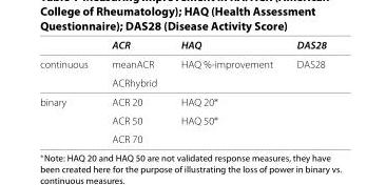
<table><thead><tr><td></td><td>ACR</td><td>HAQ</td><td>DAS28</td></tr></thead><tbody><tr><td rowspan="2">continuous</td><td>meanACR</td><td>HAQ %-improvement</td><td>DAS28</td></tr><tr><td>ACRhybrid</td><td></td><td></td></tr><tr><td rowspan="3">binary</td><td>ACR 20</td><td>HAQ 20∗</td><td></td></tr><tr><td>ACR 50</td><td>HAQ 50∗</td><td></td></tr><tr><td>ACR 70</td><td></td><td></td></tr></tbody></table>